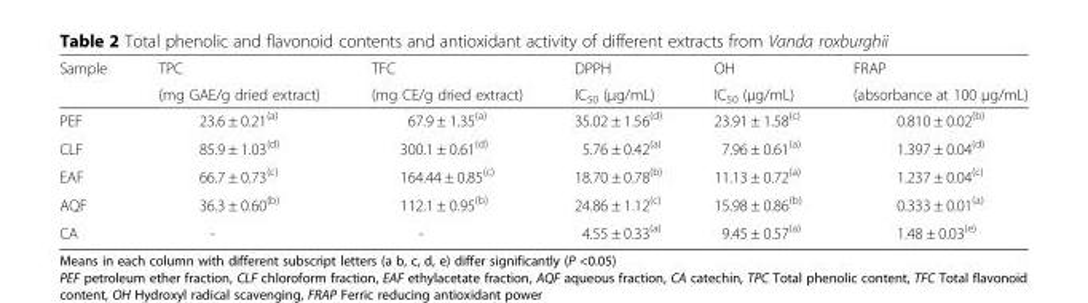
<table><thead><tr><td rowspan="2">Sample</td><td rowspan="2">TPC (mg GAE/g dried extract)</td><td rowspan="2">TFC (mg CE/g dried extract)</td><td rowspan="2">DPPH IC<sub>50</sub> (μg/mL)</td><td rowspan="2">OH IC<sub>50</sub> (μg/mL)</td><td rowspan="2">FRAP (absorbance at 100 μg/mL)</td></tr><tr></tr></thead><tbody><tr><td>PEF</td><td>23.6 ± 0.21<sup>(a)</sup></td><td>67.9 ± 1.35<sup>(a)</sup></td><td>35.02 ± 1.56<sup>(d)</sup></td><td>23.91 ± 1.58<sup>(c)</sup></td><td>0.810 ± 0.02<sup>(b)</sup></td></tr><tr><td>CLF</td><td>85.9 ± 1.03<sup>(d)</sup></td><td>300.1 ± 0.61<sup>(d)</sup></td><td>5.76 ± 0.42<sup>(a)</sup></td><td>7.96 ± 0.61<sup>(a)</sup></td><td>1.397 ± 0.04<sup>(d)</sup></td></tr><tr><td>EAF</td><td>66.7 ± 0.73<sup>(c)</sup></td><td>164.44 ± 0.85<sup>(c)</sup></td><td>18.70 ± 0.78<sup>(b)</sup></td><td>11.13 ± 0.72<sup>(a)</sup></td><td>1.237 ± 0.04<sup>(c)</sup></td></tr><tr><td>AQF</td><td>36.3 ± 0.60<sup>(b)</sup></td><td>112.1 ± 0.95<sup>(b)</sup></td><td>24.86 ± 1.12<sup>(c)</sup></td><td>15.98 ± 0.86<sup>(b)</sup></td><td>0.333 ± 0.01<sup>(a)</sup></td></tr><tr><td>CA</td><td>-</td><td>-</td><td>4.55 ± 0.33<sup>(a)</sup></td><td>9.45 ± 0.57<sup>(a)</sup></td><td>1.48 ± 0.03<sup>(e)</sup></td></tr></tbody></table>